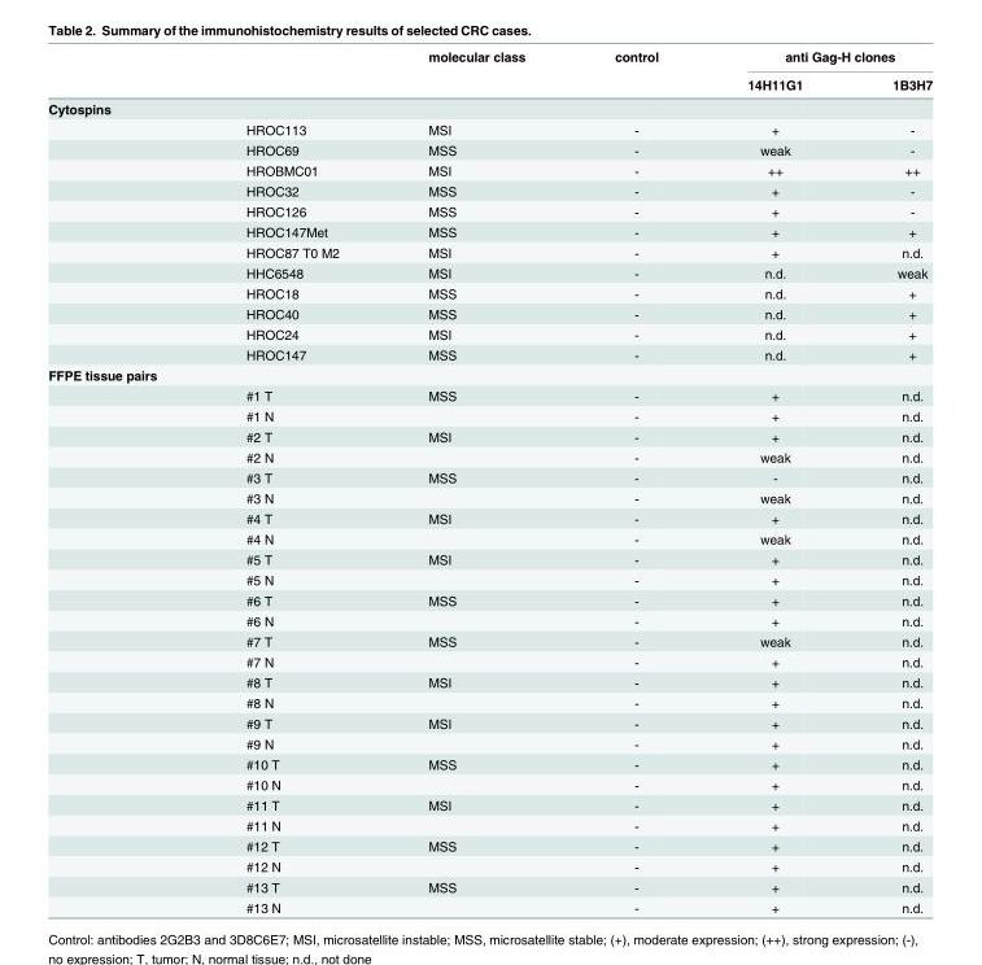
<table><thead><tr><td rowspan="2"></td><td rowspan="2"></td><td rowspan="2">molecular class</td><td rowspan="2">control</td><td colspan="2">anti Gag-H clones</td></tr><tr><td>14H11G1</td><td>1B3H7</td></tr></thead><tbody><tr><td colspan="6">Cytospins</td></tr><tr><td></td><td>HROC113</td><td>MSI</td><td>-</td><td>+</td><td>-</td></tr><tr><td></td><td>HROC69</td><td>MSS</td><td>-</td><td>weak</td><td>-</td></tr><tr><td></td><td>HROBMC01</td><td>MSI</td><td>-</td><td>++</td><td>++</td></tr><tr><td></td><td>HROC32</td><td>MSS</td><td>-</td><td>+</td><td>-</td></tr><tr><td></td><td>HROC126</td><td>MSS</td><td>-</td><td>+</td><td>-</td></tr><tr><td></td><td>HROC147Met</td><td>MSS</td><td>-</td><td>+</td><td>+</td></tr><tr><td></td><td>HROC87 T0 M2</td><td>MSI</td><td>-</td><td>+</td><td>n.d.</td></tr><tr><td></td><td>HHC6548</td><td>MSI</td><td>-</td><td>n.d.</td><td>weak</td></tr><tr><td></td><td>HROC18</td><td>MSS</td><td>-</td><td>n.d.</td><td>+</td></tr><tr><td></td><td>HROC40</td><td>MSS</td><td>-</td><td>n.d.</td><td>+</td></tr><tr><td></td><td>HROC24</td><td>MSI</td><td>-</td><td>n.d.</td><td>+</td></tr><tr><td></td><td>HROC147</td><td>MSS</td><td>-</td><td>n.d.</td><td>+</td></tr><tr><td colspan="6">FFPE tissue pairs</td></tr><tr><td></td><td>#1 T</td><td>MSS</td><td>-</td><td>+</td><td>n.d.</td></tr><tr><td></td><td>#1 N</td><td></td><td>-</td><td>+</td><td>n.d.</td></tr><tr><td></td><td>#2 T</td><td>MSI</td><td>-</td><td>+</td><td>n.d.</td></tr><tr><td></td><td>#2 N</td><td></td><td>-</td><td>weak</td><td>n.d.</td></tr><tr><td></td><td>#3 T</td><td>MSS</td><td>-</td><td>-</td><td>n.d.</td></tr><tr><td></td><td>#3 N</td><td></td><td>-</td><td>weak</td><td>n.d.</td></tr><tr><td></td><td>#4 T</td><td>MSI</td><td>-</td><td>+</td><td>n.d.</td></tr><tr><td></td><td>#4 N</td><td></td><td>-</td><td>weak</td><td>n.d.</td></tr><tr><td></td><td>#5 T</td><td>MSI</td><td>-</td><td>+</td><td>n.d.</td></tr><tr><td></td><td>#5 N</td><td></td><td>-</td><td>+</td><td>n.d.</td></tr><tr><td></td><td>#6 T</td><td>MSS</td><td>-</td><td>+</td><td>n.d.</td></tr><tr><td></td><td>#6 N</td><td></td><td>-</td><td>+</td><td>n.d.</td></tr><tr><td></td><td>#7 T</td><td>MSS</td><td>-</td><td>weak</td><td>n.d.</td></tr><tr><td></td><td>#7 N</td><td></td><td>-</td><td>+</td><td>n.d.</td></tr><tr><td></td><td>#8 T</td><td>MSI</td><td>-</td><td>+</td><td>n.d.</td></tr><tr><td></td><td>#8 N</td><td></td><td>-</td><td>+</td><td>n.d.</td></tr><tr><td></td><td>#9 T</td><td>MSI</td><td>-</td><td>+</td><td>n.d.</td></tr><tr><td></td><td>#9 N</td><td></td><td>-</td><td>+</td><td>n.d.</td></tr><tr><td></td><td>#10 T</td><td>MSS</td><td>-</td><td>+</td><td>n.d.</td></tr><tr><td></td><td>#10 N</td><td></td><td>-</td><td>+</td><td>n.d.</td></tr><tr><td></td><td>#11 T</td><td>MSI</td><td>-</td><td>+</td><td>n.d.</td></tr><tr><td></td><td>#11 N</td><td></td><td>-</td><td>+</td><td>n.d.</td></tr><tr><td></td><td>#12 T</td><td>MSS</td><td>-</td><td>+</td><td>n.d.</td></tr><tr><td></td><td>#12 N</td><td></td><td>-</td><td>+</td><td>n.d.</td></tr><tr><td></td><td>#13 T</td><td>MSS</td><td>-</td><td>+</td><td>n.d.</td></tr><tr><td></td><td>#13 N</td><td></td><td>-</td><td>+</td><td>n.d.</td></tr></tbody></table>